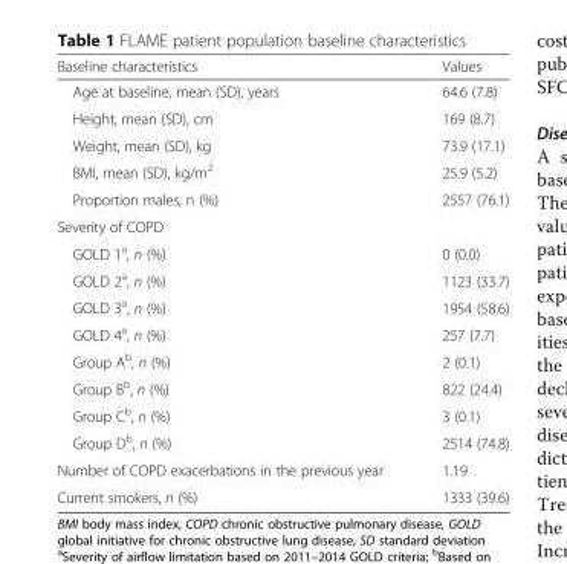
<table><thead><tr><td>Baseline characteristics</td><td>Values</td></tr></thead><tbody><tr><td>Age at baseline, mean (SD), years</td><td>64.6 (7.8)</td></tr><tr><td>Height, mean (SD), cm</td><td>169 (8.7)</td></tr><tr><td>Weight, mean (SD), kg</td><td>73.9 (17.1)</td></tr><tr><td>BMI, mean (SD), kg/m<sup>2</sup></td><td>25.9 (5.2)</td></tr><tr><td>Proportion males, n (%)</td><td>2557 (76.1)</td></tr><tr><td colspan="2">Severity of COPD</td></tr><tr><td>GOLD 1<sup>a</sup>, n (%)</td><td>0 (0.0)</td></tr><tr><td>GOLD 2<sup>a</sup>, n (%)</td><td>1123 (33.7)</td></tr><tr><td>GOLD 3<sup>a</sup>, n (%)</td><td>1954 (58.6)</td></tr><tr><td>GOLD 4<sup>a</sup>, n (%)</td><td>257 (7.7)</td></tr><tr><td>Group A<sup>b</sup>, n (%)</td><td>2 (0.1)</td></tr><tr><td>Group B<sup>b</sup>, n (%)</td><td>822 (24.4)</td></tr><tr><td>Group C<sup>b</sup>, n (%)</td><td>3 (0.1)</td></tr><tr><td>Group D<sup>b</sup>, n (%)</td><td>2514 (74.8)</td></tr><tr><td>Number of COPD exacerbations in the previous year</td><td>1.19</td></tr><tr><td>Current smokers, n (%)</td><td>1333 (39.6)</td></tr></tbody></table>